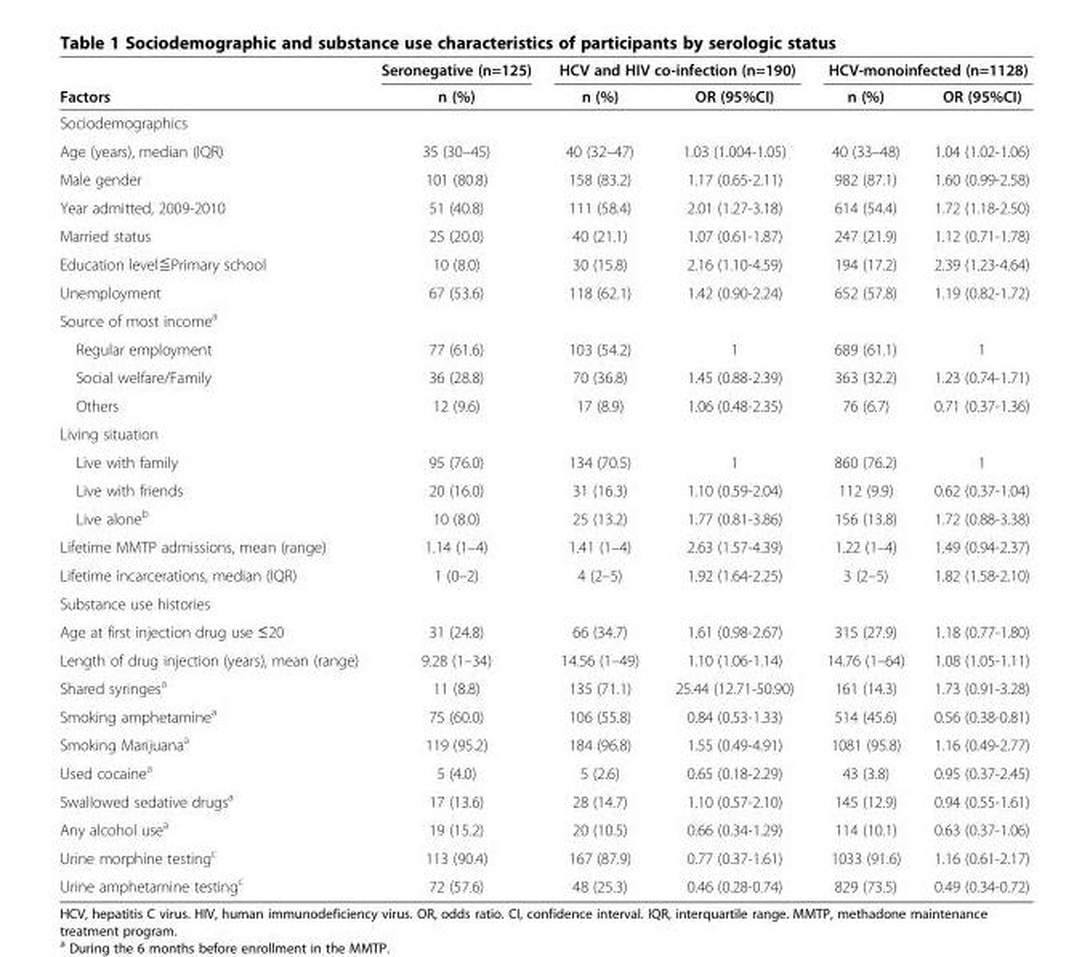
<table><thead><tr><td rowspan="2">Factors</td><td rowspan="2">Seronegative (n=125) n (%)</td><td colspan="2">HCV and HIV co-infection (n=190)</td><td colspan="2">HCV-monoinfected (n=1128)</td></tr><tr><td>n (%)</td><td>OR (95%CI)</td><td>n (%)</td><td>OR (95%CI)</td></tr></thead><tbody><tr><td colspan="6">Sociodemographics</td></tr><tr><td>Age (years), median (IQR)</td><td>35 (30–45)</td><td>40 (32–47)</td><td>1.03 (1.004-1.05)</td><td>40 (33–48)</td><td>1.04 (1.02-1.06)</td></tr><tr><td>Male gender</td><td>101 (80.8)</td><td>158 (83.2)</td><td>1.17 (0.65-2.11)</td><td>982 (87.1)</td><td>1.60 (0.99-2.58)</td></tr><tr><td>Year admitted, 2009-2010</td><td>51 (40.8)</td><td>111 (58.4)</td><td>2.01 (1.27-3.18)</td><td>614 (54.4)</td><td>1.72 (1.18-2.50)</td></tr><tr><td>Married status</td><td>25 (20.0)</td><td>40 (21.1)</td><td>1.07 (0.61-1.87)</td><td>247 (21.9)</td><td>1.12 (0.71-1.78)</td></tr><tr><td>Education level≦Primary school</td><td>10 (8.0)</td><td>30 (15.8)</td><td>2.16 (1.10-4.59)</td><td>194 (17.2)</td><td>2.39 (1.23-4.64)</td></tr><tr><td>Unemployment</td><td>67 (53.6)</td><td>118 (62.1)</td><td>1.42 (0.90-2.24)</td><td>652 (57.8)</td><td>1.19 (0.82-1.72)</td></tr><tr><td colspan="6">Source of most income<sup>a</sup></td></tr><tr><td>Regular employment</td><td>77 (61.6)</td><td>103 (54.2)</td><td>1</td><td>689 (61.1)</td><td>1</td></tr><tr><td>Social welfare/Family</td><td>36 (28.8)</td><td>70 (36.8)</td><td>1.45 (0.88-2.39)</td><td>363 (32.2)</td><td>1.23 (0.74-1.71)</td></tr><tr><td>Others</td><td>12 (9.6)</td><td>17 (8.9)</td><td>1.06 (0.48-2.35)</td><td>76 (6.7)</td><td>0.71 (0.37-1.36)</td></tr><tr><td colspan="6">Living situation</td></tr><tr><td>Live with family</td><td>95 (76.0)</td><td>134 (70.5)</td><td>1</td><td>860 (76.2)</td><td>1</td></tr><tr><td>Live with friends</td><td>20 (16.0)</td><td>31 (16.3)</td><td>1.10 (0.59-2.04)</td><td>112 (9.9)</td><td>0.62 (0.37-1.04)</td></tr><tr><td>Live alone<sup>b</sup></td><td>10 (8.0)</td><td>25 (13.2)</td><td>1.77 (0.81-3.86)</td><td>156 (13.8)</td><td>1.72 (0.88-3.38)</td></tr><tr><td>Lifetime MMTP admissions, mean (range)</td><td>1.14 (1–4)</td><td>1.41 (1–4)</td><td>2.63 (1.57-4.39)</td><td>1.22 (1–4)</td><td>1.49 (0.94-2.37)</td></tr><tr><td>Lifetime incarcerations, median (IQR)</td><td>1 (0–2)</td><td>4 (2–5)</td><td>1.92 (1.64-2.25)</td><td>3 (2–5)</td><td>1.82 (1.58-2.10)</td></tr><tr><td colspan="6">Substance use histories</td></tr><tr><td>Age at first injection drug use ≤20</td><td>31 (24.8)</td><td>66 (34.7)</td><td>1.61 (0.98-2.67)</td><td>315 (27.9)</td><td>1.18 (0.77-1.80)</td></tr><tr><td>Length of drug injection (years), mean (range)</td><td>9.28 (1–34)</td><td>14.56 (1–49)</td><td>1.10 (1.06-1.14)</td><td>14.76 (1–64)</td><td>1.08 (1.05-1.11)</td></tr><tr><td>Shared syringes<sup>a</sup></td><td>11 (8.8)</td><td>135 (71.1)</td><td>25.44 (12.71-50.90)</td><td>161 (14.3)</td><td>1.73 (0.91-3.28)</td></tr><tr><td>Smoking amphetamine<sup>a</sup></td><td>75 (60.0)</td><td>106 (55.8)</td><td>0.84 (0.53-1.33)</td><td>514 (45.6)</td><td>0.56 (0.38-0.81)</td></tr><tr><td>Smoking Marijuana<sup>a</sup></td><td>119 (95.2)</td><td>184 (96.8)</td><td>1.55 (0.49-4.91)</td><td>1081 (95.8)</td><td>1.16 (0.49-2.77)</td></tr><tr><td>Used cocaine<sup>a</sup></td><td>5 (4.0)</td><td>5 (2.6)</td><td>0.65 (0.18-2.29)</td><td>43 (3.8)</td><td>0.95 (0.37-2.45)</td></tr><tr><td>Swallowed sedative drugs<sup>a</sup></td><td>17 (13.6)</td><td>28 (14.7)</td><td>1.10 (0.57-2.10)</td><td>145 (12.9)</td><td>0.94 (0.55-1.61)</td></tr><tr><td>Any alcohol use<sup>a</sup></td><td>19 (15.2)</td><td>20 (10.5)</td><td>0.66 (0.34-1.29)</td><td>114 (10.1)</td><td>0.63 (0.37-1.06)</td></tr><tr><td>Urine morphine testing<sup>c</sup></td><td>113 (90.4)</td><td>167 (87.9)</td><td>0.77 (0.37-1.61)</td><td>1033 (91.6)</td><td>1.16 (0.61-2.17)</td></tr><tr><td>Urine amphetamine testing<sup>c</sup></td><td>72 (57.6)</td><td>48 (25.3)</td><td>0.46 (0.28-0.74)</td><td>829 (73.5)</td><td>0.49 (0.34-0.72)</td></tr></tbody></table>